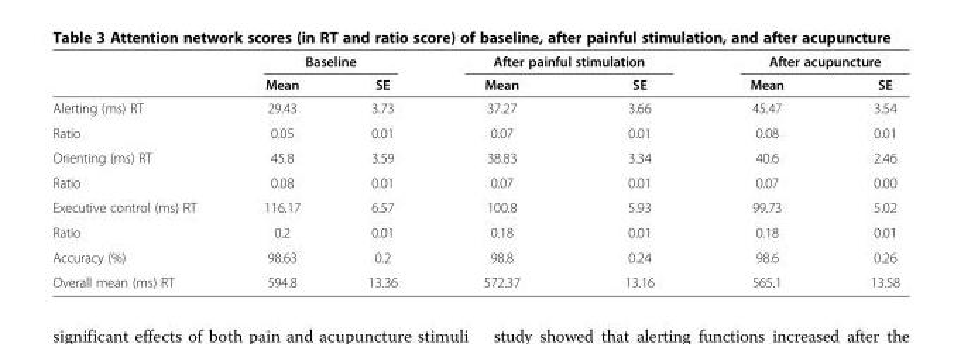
<table><thead><tr><td rowspan="2"></td><td colspan="2">Baseline</td><td colspan="2">After painful stimulation</td><td colspan="2">After acupuncture</td></tr><tr><td>Mean</td><td>SE</td><td>Mean</td><td>SE</td><td>Mean</td><td>SE</td></tr></thead><tbody><tr><td>Alerting (ms) RT</td><td>29.43</td><td>3.73</td><td>37.27</td><td>3.66</td><td>45.47</td><td>3.54</td></tr><tr><td>Ratio</td><td>0.05</td><td>0.01</td><td>0.07</td><td>0.01</td><td>0.08</td><td>0.01</td></tr><tr><td>Orienting (ms) RT</td><td>45.8</td><td>3.59</td><td>38.83</td><td>3.34</td><td>40.6</td><td>2.46</td></tr><tr><td>Ratio</td><td>0.08</td><td>0.01</td><td>0.07</td><td>0.01</td><td>0.07</td><td>0.00</td></tr><tr><td>Executive control (ms) RT</td><td>116.17</td><td>6.57</td><td>100.8</td><td>5.93</td><td>99.73</td><td>5.02</td></tr><tr><td>Ratio</td><td>0.2</td><td>0.01</td><td>0.18</td><td>0.01</td><td>0.18</td><td>0.01</td></tr><tr><td>Accuracy (%)</td><td>98.63</td><td>0.2</td><td>98.8</td><td>0.24</td><td>98.6</td><td>0.26</td></tr><tr><td>Overall mean (ms) RT</td><td>594.8</td><td>13.36</td><td>572.37</td><td>13.16</td><td>565.1</td><td>13.58</td></tr></tbody></table>